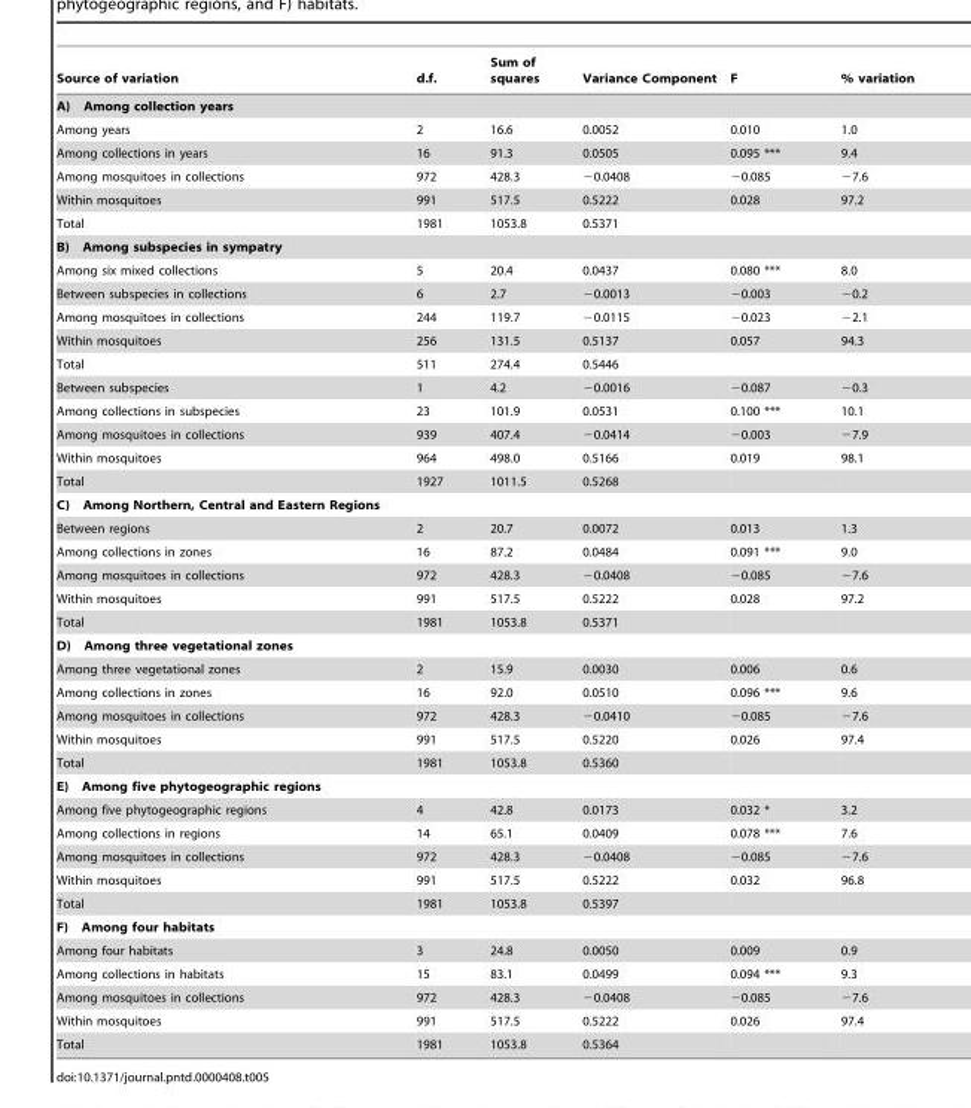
<table><thead><tr><td>Source of variation</td><td>d.f.</td><td>Sum of squares</td><td>Variance Component</td><td>F</td><td>% variation</td></tr></thead><tbody><tr><td colspan="6">A) Among collection years</td></tr><tr><td>Among years</td><td>2</td><td>16.6</td><td>0.0052</td><td>0.010</td><td>1.0</td></tr><tr><td>Among collections in years</td><td>16</td><td>91.3</td><td>0.0505</td><td>0.095 ***</td><td>9.4</td></tr><tr><td>Among mosquitoes in collections</td><td>972</td><td>428.3</td><td>−0.0408</td><td>−0.085</td><td>−7.6</td></tr><tr><td>Within mosquitoes</td><td>991</td><td>517.5</td><td>0.5222</td><td>0.028</td><td>97.2</td></tr><tr><td>Total</td><td>1981</td><td>1053.8</td><td>0.5371</td><td></td><td></td></tr><tr><td colspan="6">B) Among subspecies in sympatry</td></tr><tr><td>Among six mixed collections</td><td>5</td><td>20.4</td><td>0.0437</td><td>0.080 ***</td><td>8.0</td></tr><tr><td>Between subspecies in collections</td><td>6</td><td>2.7</td><td>−0.0013</td><td>−0.003</td><td>−0.2</td></tr><tr><td>Among mosquitoes in collections</td><td>244</td><td>119.7</td><td>−0.0115</td><td>−0.023</td><td>−2.1</td></tr><tr><td>Within mosquitoes</td><td>256</td><td>131.5</td><td>0.5137</td><td>0.057</td><td>94.3</td></tr><tr><td>Total</td><td>511</td><td>274.4</td><td>0.5446</td><td></td><td></td></tr><tr><td>Between subspecies</td><td>1</td><td>4.2</td><td>−0.0016</td><td>−0.087</td><td>−0.3</td></tr><tr><td>Among collections in subspecies</td><td>23</td><td>101.9</td><td>0.0531</td><td>0.100 ***</td><td>10.1</td></tr><tr><td>Among mosquitoes in collections</td><td>939</td><td>407.4</td><td>−0.0414</td><td>−0.003</td><td>−7.9</td></tr><tr><td>Within mosquitoes</td><td>964</td><td>498.0</td><td>0.5166</td><td>0.019</td><td>98.1</td></tr><tr><td>Total</td><td>1927</td><td>1011.5</td><td>0.5268</td><td></td><td></td></tr><tr><td colspan="6">C) Among Northern, Central and Eastern Regions</td></tr><tr><td>Between regions</td><td>2</td><td>20.7</td><td>0.0072</td><td>0.013</td><td>1.3</td></tr><tr><td>Among collections in zones</td><td>16</td><td>87.2</td><td>0.0484</td><td>0.091 ***</td><td>9.0</td></tr><tr><td>Among mosquitoes in collections</td><td>972</td><td>428.3</td><td>−0.0408</td><td>−0.085</td><td>−7.6</td></tr><tr><td>Within mosquitoes</td><td>991</td><td>517.5</td><td>0.5222</td><td>0.028</td><td>97.2</td></tr><tr><td>Total</td><td>1981</td><td>1053.8</td><td>0.5371</td><td></td><td></td></tr><tr><td colspan="6">D) Among three vegetational zones</td></tr><tr><td>Among three vegetational zones</td><td>2</td><td>15.9</td><td>0.0030</td><td>0.006</td><td>0.6</td></tr><tr><td>Among collections in zones</td><td>16</td><td>92.0</td><td>0.0510</td><td>0.096 ***</td><td>9.6</td></tr><tr><td>Among mosquitoes in collections</td><td>972</td><td>428.3</td><td>−0.0410</td><td>−0.085</td><td>−7.6</td></tr><tr><td>Within mosquitoes</td><td>991</td><td>517.5</td><td>0.5220</td><td>0.026</td><td>97.4</td></tr><tr><td>Total</td><td>1981</td><td>1053.8</td><td>0.5360</td><td></td><td></td></tr><tr><td colspan="6">E) Among five phytogeographic regions</td></tr><tr><td>Among five phytogeographic regions</td><td>4</td><td>42.8</td><td>0.0173</td><td>0.032 *</td><td>3.2</td></tr><tr><td>Among collections in regions</td><td>14</td><td>65.1</td><td>0.0409</td><td>0.078 ***</td><td>7.6</td></tr><tr><td>Among mosquitoes in collections</td><td>972</td><td>428.3</td><td>−0.0408</td><td>−0.085</td><td>−7.6</td></tr><tr><td>Within mosquitoes</td><td>991</td><td>517.5</td><td>0.5222</td><td>0.032</td><td>96.8</td></tr><tr><td>Total</td><td>1981</td><td>1053.8</td><td>0.5397</td><td></td><td></td></tr><tr><td colspan="6">F) Among four habitats</td></tr><tr><td>Among four habitats</td><td>3</td><td>24.8</td><td>0.0050</td><td>0.009</td><td>0.9</td></tr><tr><td>Among collections in habitats</td><td>15</td><td>83.1</td><td>0.0499</td><td>0.094 ***</td><td>9.3</td></tr><tr><td>Among mosquitoes in collections</td><td>972</td><td>428.3</td><td>−0.0408</td><td>−0.085</td><td>−7.6</td></tr><tr><td>Within mosquitoes</td><td>991</td><td>517.5</td><td>0.5222</td><td>0.026</td><td>97.4</td></tr><tr><td>Total</td><td>1981</td><td>1053.8</td><td>0.5364</td><td></td><td></td></tr></tbody></table>